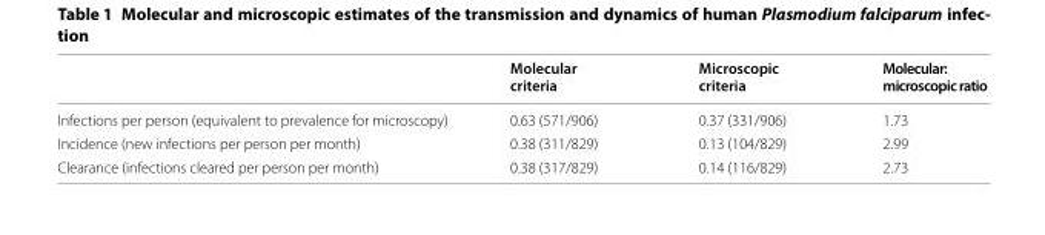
<table><thead><tr><td></td><td>Molecular criteria</td><td>Microscopic criteria</td><td>Molecular: microscopic ratio</td></tr></thead><tbody><tr><td>Infections per person (equivalent to prevalence for microscopy)</td><td>0.63 (571/906)</td><td>0.37 (331/906)</td><td>1.73</td></tr><tr><td>Incidence (new infections per person per month)</td><td>0.38 (311/829)</td><td>0.13 (104/829)</td><td>2.99</td></tr><tr><td>Clearance (infections cleared per person per month)</td><td>0.38 (317/829)</td><td>0.14 (116/829)</td><td>2.73</td></tr></tbody></table>